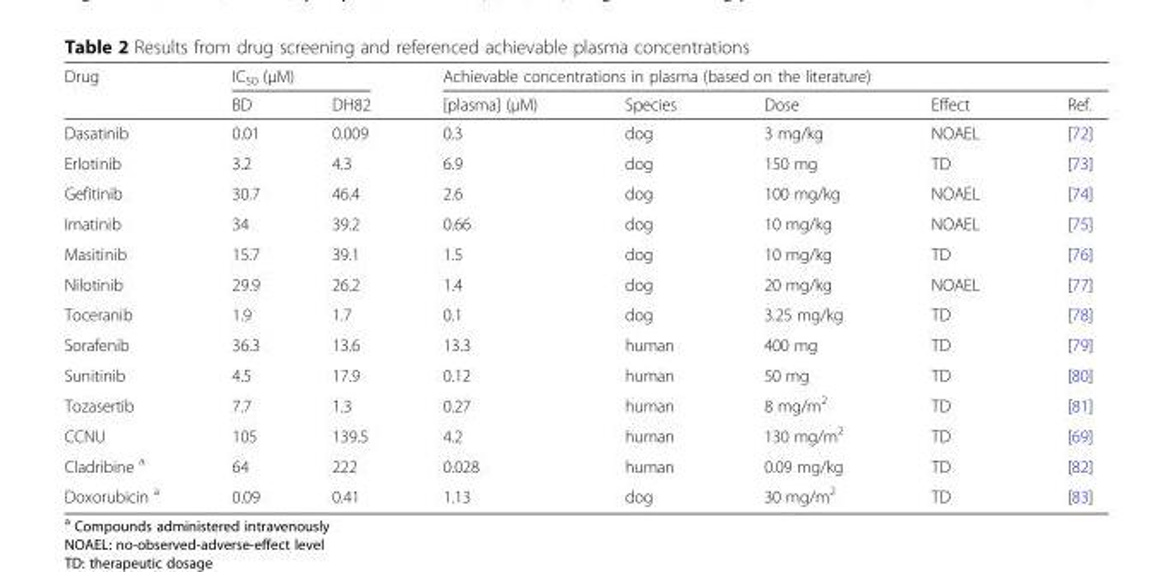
<table><thead><tr><td rowspan="2">Drug</td><td colspan="2">IC<sub>50</sub> (μM)</td><td colspan="5">Achievable concentrations in plasma (based on the literature)</td></tr><tr><td>BD</td><td>DH82</td><td>[plasma] (μM)</td><td>Species</td><td>Dose</td><td>Effect</td><td>Ref.</td></tr></thead><tbody><tr><td>Dasatinib</td><td>0.01</td><td>0.009</td><td>0.3</td><td>dog</td><td>3 mg/kg</td><td>NOAEL</td><td>[72]</td></tr><tr><td>Erlotinib</td><td>3.2</td><td>4.3</td><td>6.9</td><td>dog</td><td>150 mg</td><td>TD</td><td>[73]</td></tr><tr><td>Gefitinib</td><td>30.7</td><td>46.4</td><td>2.6</td><td>dog</td><td>100 mg/kg</td><td>NOAEL</td><td>[74]</td></tr><tr><td>Imatinib</td><td>34</td><td>39.2</td><td>0.66</td><td>dog</td><td>10 mg/kg</td><td>NOAEL</td><td>[75]</td></tr><tr><td>Masitinib</td><td>15.7</td><td>39.1</td><td>1.5</td><td>dog</td><td>10 mg/kg</td><td>TD</td><td>[76]</td></tr><tr><td>Nilotinib</td><td>29.9</td><td>26.2</td><td>1.4</td><td>dog</td><td>20 mg/kg</td><td>NOAEL</td><td>[77]</td></tr><tr><td>Toceranib</td><td>1.9</td><td>1.7</td><td>0.1</td><td>dog</td><td>3.25 mg/kg</td><td>TD</td><td>[78]</td></tr><tr><td>Sorafenib</td><td>36.3</td><td>13.6</td><td>13.3</td><td>human</td><td>400 mg</td><td>TD</td><td>[79]</td></tr><tr><td>Sunitinib</td><td>4.5</td><td>17.9</td><td>0.12</td><td>human</td><td>50 mg</td><td>TD</td><td>[80]</td></tr><tr><td>Tozasertib</td><td>7.7</td><td>1.3</td><td>0.27</td><td>human</td><td>8 mg/m<sup>2</sup></td><td>TD</td><td>[81]</td></tr><tr><td>CCNU</td><td>105</td><td>139.5</td><td>4.2</td><td>human</td><td>130 mg/m<sup>2</sup></td><td>TD</td><td>[69]</td></tr><tr><td>Cladribine <sup>a</sup></td><td>64</td><td>222</td><td>0.028</td><td>human</td><td>0.09 mg/kg</td><td>TD</td><td>[82]</td></tr><tr><td>Doxorubicin <sup>a</sup></td><td>0.09</td><td>0.41</td><td>1.13</td><td>dog</td><td>30 mg/m<sup>2</sup></td><td>TD</td><td>[83]</td></tr></tbody></table>